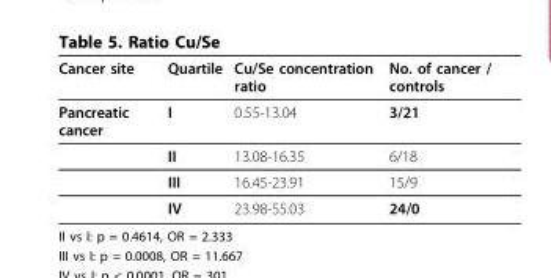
<table><thead><tr><td>Cancer site</td><td>Quartile</td><td>Cu/Se concentration ratio</td><td>No. of cancer / controls</td></tr></thead><tbody><tr><td rowspan="4">Pancreatic cancer</td><td>I</td><td>0.55-13.04</td><td>3/21</td></tr><tr><td>II</td><td>13.08-16.35</td><td>6/18</td></tr><tr><td>III</td><td>16.45-23.91</td><td>15/9</td></tr><tr><td>IV</td><td>23.98-55.03</td><td>24/0</td></tr></tbody></table>